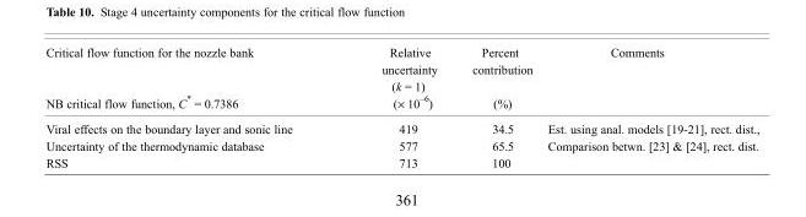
<table><thead><tr><td rowspan="2">Critical flow function for the nozzle bank NB critical flow function, C* = 0.7386</td><td rowspan="2">Relative uncertainty (k = 1) (× 10<sup>–6</sup>)</td><td rowspan="2">Percent contribution (%)</td><td rowspan="2">Comments</td></tr><tr></tr></thead><tbody><tr><td>Viral effects on the boundary layer and sonic line</td><td>419</td><td>34.5</td><td>Est. using anal. models [19-21], rect. dist.,</td></tr><tr><td>Uncertainty of the thermodynamic database</td><td>577</td><td>65.5</td><td>Comparison betwn. [23] &amp; [24], rect. dist.</td></tr><tr><td>RSS</td><td>713</td><td>100</td><td></td></tr></tbody></table>